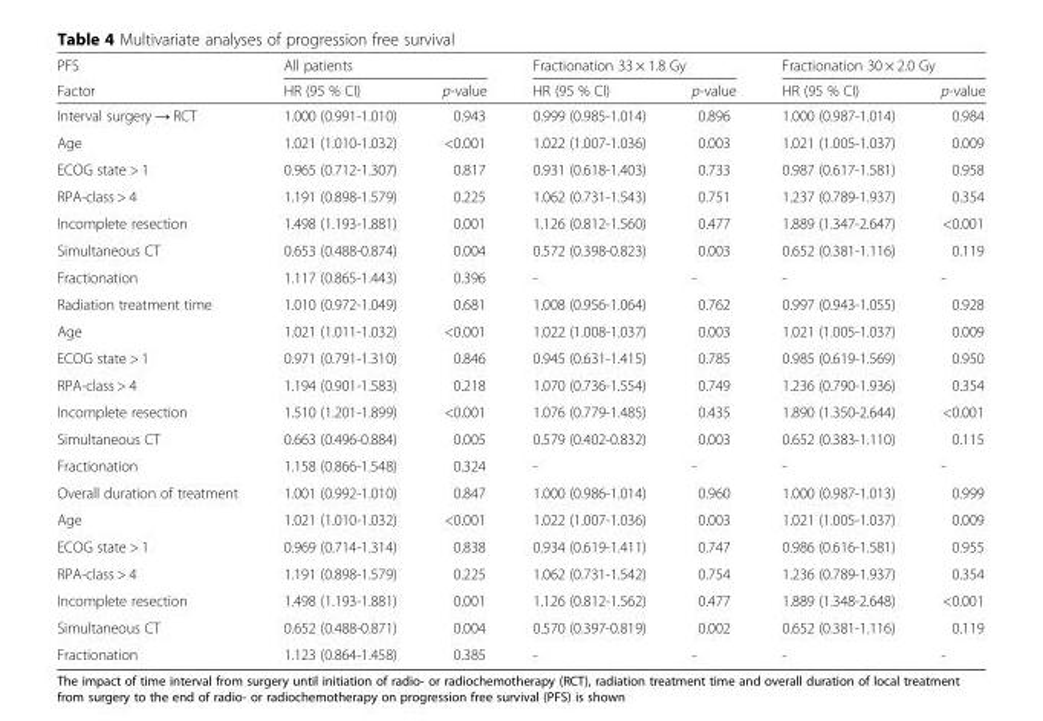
<table><thead><tr><td rowspan="2">PFS Factor</td><td colspan="2">All patients</td><td colspan="2">Fractionation 33 × 1.8 Gy</td><td colspan="2">Fractionation 30 × 2.0 Gy</td></tr><tr><td>HR (95 % CI)</td><td>p-value</td><td>HR (95 % CI)</td><td>p-value</td><td>HR (95 % CI)</td><td>p-value</td></tr></thead><tbody><tr><td>Interval surgery → RCT</td><td>1.000 (0.991-1.010)</td><td>0.943</td><td>0.999 (0.985-1.014)</td><td>0.896</td><td>1.000 (0.987-1.014)</td><td>0.984</td></tr><tr><td>Age</td><td>1.021 (1.010-1.032)</td><td>&lt;0.001</td><td>1.022 (1.007-1.036)</td><td>0.003</td><td>1.021 (1.005-1.037)</td><td>0.009</td></tr><tr><td>ECOG state &gt; 1</td><td>0.965 (0.712-1.307)</td><td>0.817</td><td>0.931 (0.618-1.403)</td><td>0.733</td><td>0.987 (0.617-1.581)</td><td>0.958</td></tr><tr><td>RPA-class &gt; 4</td><td>1.191 (0.898-1.579)</td><td>0.225</td><td>1.062 (0.731-1.543)</td><td>0.751</td><td>1.237 (0.789-1.937)</td><td>0.354</td></tr><tr><td>Incomplete resection</td><td>1.498 (1.193-1.881)</td><td>0.001</td><td>1.126 (0.812-1.560)</td><td>0.477</td><td>1.889 (1.347-2.647)</td><td>&lt;0.001</td></tr><tr><td>Simultaneous CT</td><td>0.653 (0.488-0.874)</td><td>0.004</td><td>0.572 (0.398-0.823)</td><td>0.003</td><td>0.652 (0.381-1.116)</td><td>0.119</td></tr><tr><td>Fractionation</td><td>1.117 (0.865-1.443)</td><td>0.396</td><td>-</td><td>-</td><td>-</td><td>-</td></tr><tr><td>Radiation treatment time</td><td>1.010 (0.972-1.049)</td><td>0.681</td><td>1.008 (0.956-1.064)</td><td>0.762</td><td>0.997 (0.943-1.055)</td><td>0.928</td></tr><tr><td>Age</td><td>1.021 (1.011-1.032)</td><td>&lt;0.001</td><td>1.022 (1.008-1.037)</td><td>0.003</td><td>1.021 (1.005-1.037)</td><td>0.009</td></tr><tr><td>ECOG state &gt; 1</td><td>0.971 (0.791-1.310)</td><td>0.846</td><td>0.945 (0.631-1.415)</td><td>0.785</td><td>0.985 (0.619-1.569)</td><td>0.950</td></tr><tr><td>RPA-class &gt; 4</td><td>1.194 (0.901-1.583)</td><td>0.218</td><td>1.070 (0.736-1.554)</td><td>0.749</td><td>1.236 (0.790-1.936)</td><td>0.354</td></tr><tr><td>Incomplete resection</td><td>1.510 (1.201-1.899)</td><td>&lt;0.001</td><td>1.076 (0.779-1.485)</td><td>0.435</td><td>1.890 (1.350-2.644)</td><td>&lt;0.001</td></tr><tr><td>Simultaneous CT</td><td>0.663 (0.496-0.884)</td><td>0.005</td><td>0.579 (0.402-0.832)</td><td>0.003</td><td>0.652 (0.383-1.110)</td><td>0.115</td></tr><tr><td>Fractionation</td><td>1.158 (0.866-1.548)</td><td>0.324</td><td>-</td><td>-</td><td>-</td><td>-</td></tr><tr><td>Overall duration of treatment</td><td>1.001 (0.992-1.010)</td><td>0.847</td><td>1.000 (0.986-1.014)</td><td>0.960</td><td>1.000 (0.987-1.013)</td><td>0.999</td></tr><tr><td>Age</td><td>1.021 (1.010-1.032)</td><td>&lt;0.001</td><td>1.022 (1.007-1.036)</td><td>0.003</td><td>1.021 (1.005-1.037)</td><td>0.009</td></tr><tr><td>ECOG state &gt; 1</td><td>0.969 (0.714-1.314)</td><td>0.838</td><td>0.934 (0.619-1.411)</td><td>0.747</td><td>0.986 (0.616-1.581)</td><td>0.955</td></tr><tr><td>RPA-class &gt; 4</td><td>1.191 (0.898-1.579)</td><td>0.225</td><td>1.062 (0.731-1.542)</td><td>0.754</td><td>1.236 (0.789-1.937)</td><td>0.354</td></tr><tr><td>Incomplete resection</td><td>1.498 (1.193-1.881)</td><td>0.001</td><td>1.126 (0.812-1.562)</td><td>0.477</td><td>1.889 (1.348-2.648)</td><td>&lt;0.001</td></tr><tr><td>Simultaneous CT</td><td>0.652 (0.488-0.871)</td><td>0.004</td><td>0.570 (0.397-0.819)</td><td>0.002</td><td>0.652 (0.381-1.116)</td><td>0.119</td></tr><tr><td>Fractionation</td><td>1.123 (0.864-1.458)</td><td>0.385</td><td>-</td><td>-</td><td>-</td><td>-</td></tr></tbody></table>